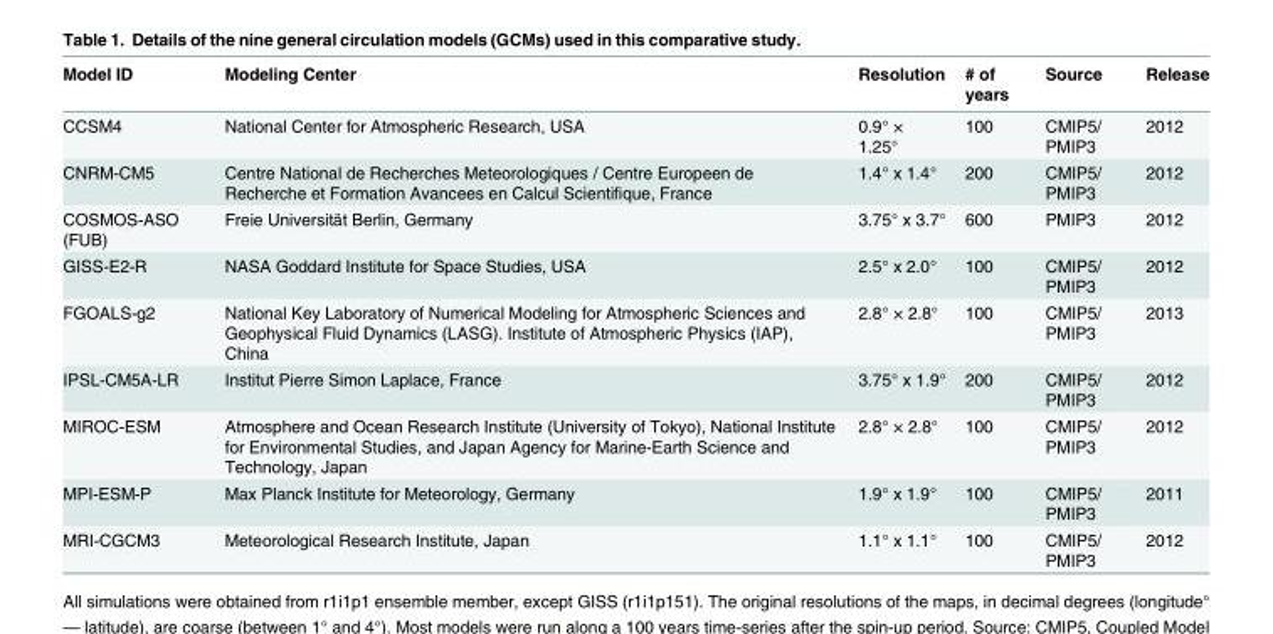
<table><thead><tr><td>Model ID</td><td>Modeling Center</td><td>Resolution</td><td># of years</td><td>Source</td><td>Release</td></tr></thead><tbody><tr><td>CCSM4</td><td>National Center for Atmospheric Research, USA</td><td>0.9° × 1.25°</td><td>100</td><td>CMIP5/ PMIP3</td><td>2012</td></tr><tr><td>CNRM-CM5</td><td>Centre National de Recherches Meteorologiques / Centre Europeen de Recherche et Formation Avancees en Calcul Scientifique, France</td><td>1.4° x 1.4°</td><td>200</td><td>CMIP5/ PMIP3</td><td>2012</td></tr><tr><td>COSMOS-ASO (FUB)</td><td>Freie Universität Berlin, Germany</td><td>3.75° x 3.7°</td><td>600</td><td>PMIP3</td><td>2012</td></tr><tr><td>GISS-E2-R</td><td>NASA Goddard Institute for Space Studies, USA</td><td>2.5° x 2.0°</td><td>100</td><td>CMIP5/ PMIP3</td><td>2012</td></tr><tr><td>FGOALS-g2</td><td>National Key Laboratory of Numerical Modeling for Atmospheric Sciences and Geophysical Fluid Dynamics (LASG). Institute of Atmospheric Physics (IAP), China</td><td>2.8° × 2.8°</td><td>100</td><td>CMIP5/ PMIP3</td><td>2013</td></tr><tr><td>IPSL-CM5A-LR</td><td>Institut Pierre Simon Laplace, France</td><td>3.75° x 1.9°</td><td>200</td><td>CMIP5/ PMIP3</td><td>2012</td></tr><tr><td>MIROC-ESM</td><td>Atmosphere and Ocean Research Institute (University of Tokyo), National Institute for Environmental Studies, and Japan Agency for Marine-Earth Science and Technology, Japan</td><td>2.8° × 2.8°</td><td>100</td><td>CMIP5/ PMIP3</td><td>2012</td></tr><tr><td>MPI-ESM-P</td><td>Max Planck Institute for Meteorology, Germany</td><td>1.9° x 1.9°</td><td>100</td><td>CMIP5/ PMIP3</td><td>2011</td></tr><tr><td>MRI-CGCM3</td><td>Meteorological Research Institute, Japan</td><td>1.1° x 1.1°</td><td>100</td><td>CMIP5/ PMIP3</td><td>2012</td></tr></tbody></table>